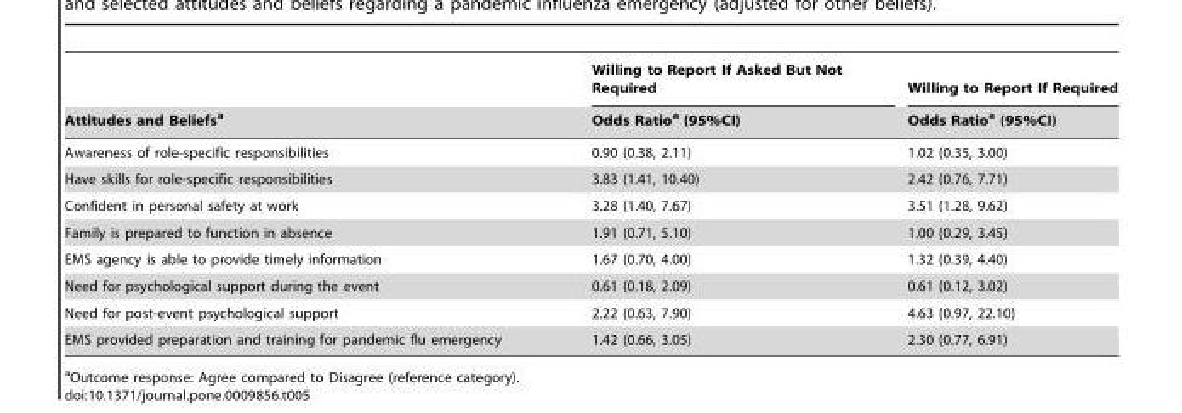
<table><thead><tr><td rowspan="2">Attitudes and Beliefs<sup>a</sup></td><td rowspan="2">Willing to Report If Asked But Not Required Odds Ratio<sup>a</sup> (95%CI)</td><td rowspan="2">Willing to Report If Required Odds Ratio<sup>a</sup> (95%CI)</td></tr><tr></tr></thead><tbody><tr><td>Awareness of role-specific responsibilities</td><td>0.90 (0.38, 2.11)</td><td>1.02 (0.35, 3.00)</td></tr><tr><td>Have skills for role-specific responsibilities</td><td>3.83 (1.41, 10.40)</td><td>2.42 (0.76, 7.71)</td></tr><tr><td>Confident in personal safety at work</td><td>3.28 (1.40, 7.67)</td><td>3.51 (1.28, 9.62)</td></tr><tr><td>Family is prepared to function in absence</td><td>1.91 (0.71, 5.10)</td><td>1.00 (0.29, 3.45)</td></tr><tr><td>EMS agency is able to provide timely information</td><td>1.67 (0.70, 4.00)</td><td>1.32 (0.39, 4.40)</td></tr><tr><td>Need for psychological support during the event</td><td>0.61 (0.18, 2.09)</td><td>0.61 (0.12, 3.02)</td></tr><tr><td>Need for post-event psychological support</td><td>2.22 (0.63, 7.90)</td><td>4.63 (0.97, 22.10)</td></tr><tr><td>EMS provided preparation and training for pandemic flu emergency</td><td>1.42 (0.66, 3.05)</td><td>2.30 (0.77, 6.91)</td></tr></tbody></table>